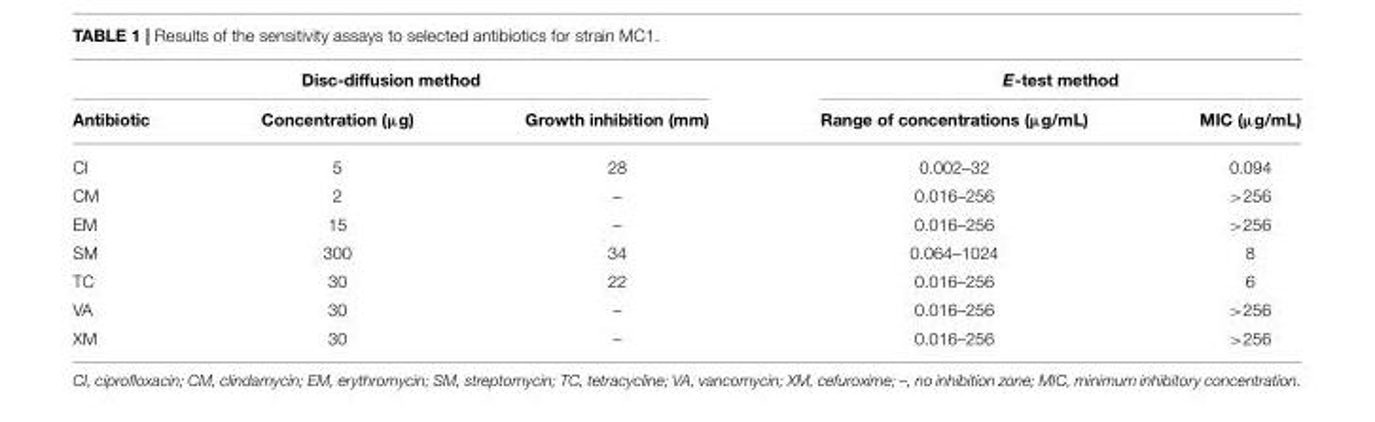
<table><thead><tr><td colspan="3">Disc-diffusion method</td><td colspan="2">E-test method</td></tr><tr><td>Antibiotic</td><td>Concentration (µg)</td><td>Growth inhibition (mm)</td><td>Range of concentrations (µg/mL)</td><td>MIC (µg/mL)</td></tr></thead><tbody><tr><td>CI</td><td>5</td><td>28</td><td>0.002–32</td><td>0.094</td></tr><tr><td>CM</td><td>2</td><td>–</td><td>0.016–256</td><td>&gt;256</td></tr><tr><td>EM</td><td>15</td><td>–</td><td>0.016–256</td><td>&gt;256</td></tr><tr><td>SM</td><td>300</td><td>34</td><td>0.064–1024</td><td>8</td></tr><tr><td>TC</td><td>30</td><td>22</td><td>0.016–256</td><td>6</td></tr><tr><td>VA</td><td>30</td><td>–</td><td>0.016–256</td><td>&gt;256</td></tr><tr><td>XM</td><td>30</td><td>–</td><td>0.016–256</td><td>&gt;256</td></tr></tbody></table>